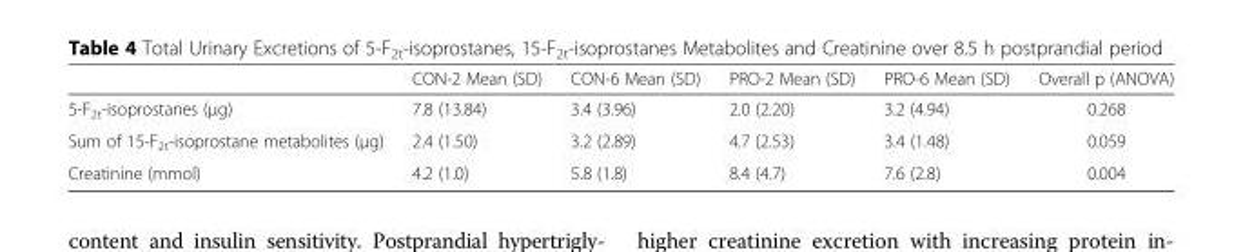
<table><thead><tr><td></td><td>CON-2 Mean (SD)</td><td>CON-6 Mean (SD)</td><td>PRO-2 Mean (SD)</td><td>PRO-6 Mean (SD)</td><td>Overall p (ANOVA)</td></tr></thead><tbody><tr><td>5-F<sub>2t</sub>-isoprostanes (μg)</td><td>7.8 (13.84)</td><td>3.4 (3.96)</td><td>2.0 (2.20)</td><td>3.2 (4.94)</td><td>0.268</td></tr><tr><td>Sum of 15-F<sub>2t</sub>-isoprostane metabolites (μg)</td><td>2.4 (1.50)</td><td>3.2 (2.89)</td><td>4.7 (2.53)</td><td>3.4 (1.48)</td><td>0.059</td></tr><tr><td>Creatinine (mmol)</td><td>4.2 (1.0)</td><td>5.8 (1.8)</td><td>8.4 (4.7)</td><td>7.6 (2.8)</td><td>0.004</td></tr></tbody></table>